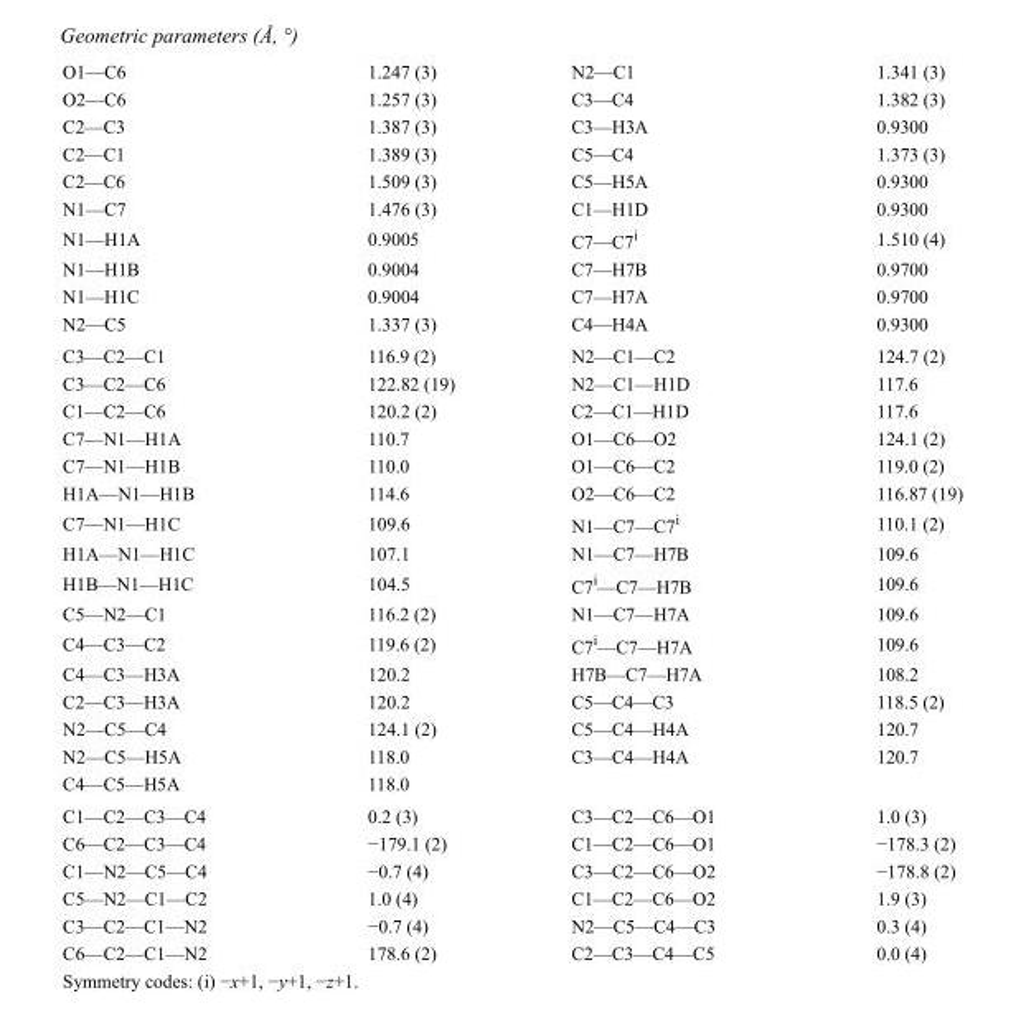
<table><tbody><tr><td>O1—C6</td><td>1.247 (3)</td><td>N2—C1</td><td>1.341 (3)</td></tr><tr><td>O2—C6</td><td>1.257 (3)</td><td>C3—C4</td><td>1.382 (3)</td></tr><tr><td>C2—C3</td><td>1.387 (3)</td><td>C3—H3A</td><td>0.9300</td></tr><tr><td>C2—C1</td><td>1.389 (3)</td><td>C5—C4</td><td>1.373 (3)</td></tr><tr><td>C2—C6</td><td>1.509 (3)</td><td>C5—H5A</td><td>0.9300</td></tr><tr><td>N1—C7</td><td>1.476 (3)</td><td>C1—H1D</td><td>0.9300</td></tr><tr><td>N1—H1A</td><td>0.9005</td><td>C7—C7<sup>i</sup></td><td>1.510 (4)</td></tr><tr><td>N1—H1B</td><td>0.9004</td><td>C7—H7B</td><td>0.9700</td></tr><tr><td>N1—H1C</td><td>0.9004</td><td>C7—H7A</td><td>0.9700</td></tr><tr><td>N2—C5</td><td>1.337 (3)</td><td>C4—H4A</td><td>0.9300</td></tr><tr><td>C3—C2—C1</td><td>116.9 (2)</td><td>N2—C1—C2</td><td>124.7 (2)</td></tr><tr><td>C3—C2—C6</td><td>122.82 (19)</td><td>N2—C1—H1D</td><td>117.6</td></tr><tr><td>C1—C2—C6</td><td>120.2 (2)</td><td>C2—C1—H1D</td><td>117.6</td></tr><tr><td>C7—N1—H1A</td><td>110.7</td><td>O1—C6—O2</td><td>124.1 (2)</td></tr><tr><td>C7—N1—H1B</td><td>110.0</td><td>O1—C6—C2</td><td>119.0 (2)</td></tr><tr><td>H1A—N1—H1B</td><td>114.6</td><td>O2—C6—C2</td><td>116.87 (19)</td></tr><tr><td>C7—N1—H1C</td><td>109.6</td><td>N1—C7—C7<sup>i</sup></td><td>110.1 (2)</td></tr><tr><td>H1A—N1—H1C</td><td>107.1</td><td>N1—C7—H7B</td><td>109.6</td></tr><tr><td>H1B—N1—H1C</td><td>104.5</td><td>C7<sup>i</sup>—C7—H7B</td><td>109.6</td></tr><tr><td>C5—N2—C1</td><td>116.2 (2)</td><td>N1—C7—H7A</td><td>109.6</td></tr><tr><td>C4—C3—C2</td><td>119.6 (2)</td><td>C7<sup>i</sup>—C7—H7A</td><td>109.6</td></tr><tr><td>C4—C3—H3A</td><td>120.2</td><td>H7B—C7—H7A</td><td>108.2</td></tr><tr><td>C2—C3—H3A</td><td>120.2</td><td>C5—C4—C3</td><td>118.5 (2)</td></tr><tr><td>N2—C5—C4</td><td>124.1 (2)</td><td>C5—C4—H4A</td><td>120.7</td></tr><tr><td>N2—C5—H5A</td><td>118.0</td><td>C3—C4—H4A</td><td>120.7</td></tr><tr><td>C4—C5—H5A</td><td>118.0</td><td></td><td></td></tr><tr><td>C1—C2—C3—C4</td><td>0.2 (3)</td><td>C3—C2—C6—O1</td><td>1.0 (3)</td></tr><tr><td>C6—C2—C3—C4</td><td>−179.1 (2)</td><td>C1—C2—C6—O1</td><td>−178.3 (2)</td></tr><tr><td>C1—N2—C5—C4</td><td>−0.7 (4)</td><td>C3—C2—C6—O2</td><td>−178.8 (2)</td></tr><tr><td>C5—N2—C1—C2</td><td>1.0 (4)</td><td>C1—C2—C6—O2</td><td>1.9 (3)</td></tr><tr><td>C3—C2—C1—N2</td><td>−0.7 (4)</td><td>N2—C5—C4—C3</td><td>0.3 (4)</td></tr><tr><td>C6—C2—C1—N2</td><td>178.6 (2)</td><td>C2—C3—C4—C5</td><td>0.0 (4)</td></tr></tbody></table>